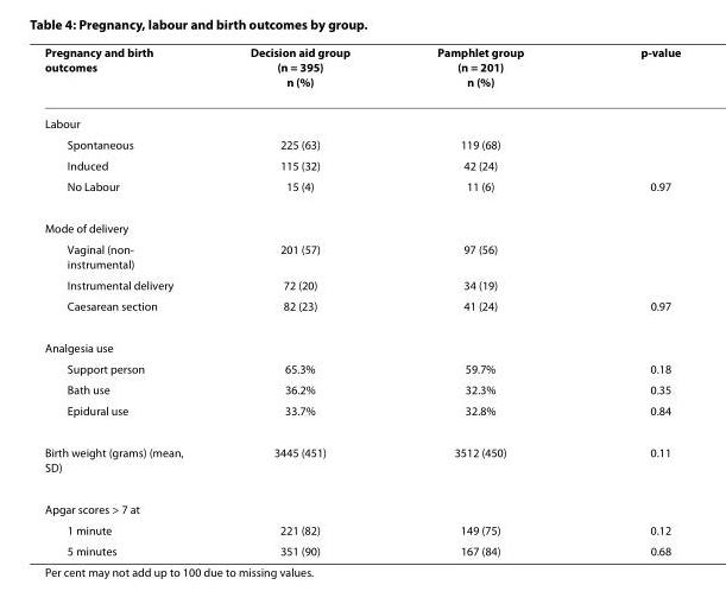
<table><thead><tr><td>Pregnancy and birth outcomes</td><td>Decision aid group (n = 395) n (%)</td><td>Pamphlet group (n = 201) n (%)</td><td>p-value</td></tr></thead><tbody><tr><td colspan="4">Labour</td></tr><tr><td>Spontaneous</td><td>225 (63)</td><td>119 (68)</td><td></td></tr><tr><td>Induced</td><td>115 (32)</td><td>42 (24)</td><td></td></tr><tr><td>No Labour</td><td>15 (4)</td><td>11 (6)</td><td>0.97</td></tr><tr><td colspan="4">Mode of delivery</td></tr><tr><td>Vaginal (non- instrumental)</td><td>201 (57)</td><td>97 (56)</td><td></td></tr><tr><td>Instrumental delivery</td><td>72 (20)</td><td>34 (19)</td><td></td></tr><tr><td>Caesarean section</td><td>82 (23)</td><td>41 (24)</td><td>0.97</td></tr><tr><td colspan="4">Analgesia use</td></tr><tr><td>Support person</td><td>65.3%</td><td>59.7%</td><td>0.18</td></tr><tr><td>Bath use</td><td>36.2%</td><td>32.3%</td><td>0.35</td></tr><tr><td>Epidural use</td><td>33.7%</td><td>32.8%</td><td>0.84</td></tr><tr><td>Birth weight (grams) (mean, SD)</td><td>3445 (451)</td><td>3512 (450)</td><td>0.11</td></tr><tr><td colspan="4">Apgar scores &gt; 7 at</td></tr><tr><td>1 minute</td><td>221 (82)</td><td>149 (75)</td><td>0.12</td></tr><tr><td>5 minutes</td><td>351 (90)</td><td>167 (84)</td><td>0.68</td></tr></tbody></table>